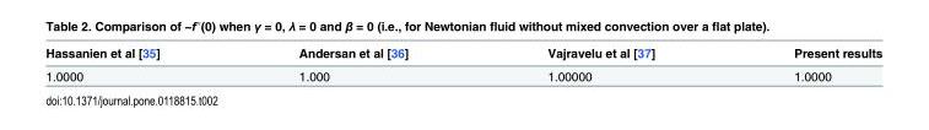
<table><thead><tr><td>Hassanien et al [35]</td><td>Andersan et al [36]</td><td>Vajravelu et al [37]</td><td>Present results</td></tr></thead><tbody><tr><td>1.0000</td><td>1.000</td><td>1.00000</td><td>1.0000</td></tr></tbody></table>